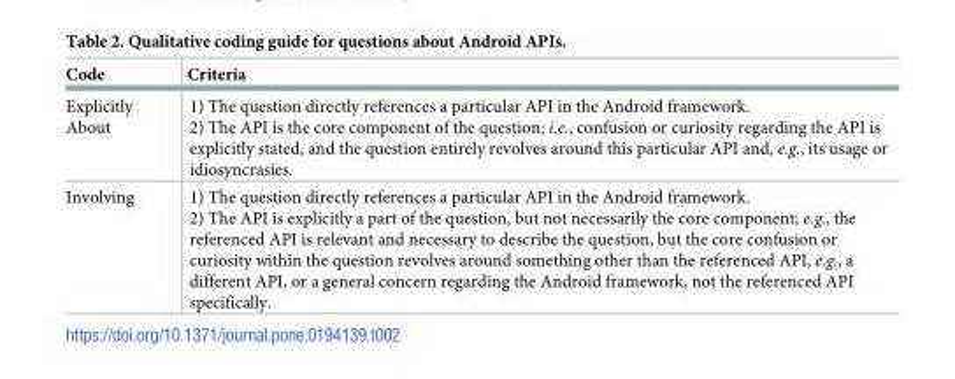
<table><thead><tr><td>Code</td><td>Criteria</td></tr></thead><tbody><tr><td>Explicitly About</td><td>1) The question directly references a particular API in the Android framework. 2) The API is the core component of the question; i.e., confusion or curiosity regarding the API is explicitly stated, and the question entirely revolves around this particular API and, e.g., its usage or idiosyncrasies.</td></tr><tr><td>Involving</td><td>1) The question directly references a particular API in the Android framework. 2) The API is explicitly a part of the question, but not necessarily the core component; e.g., the referenced API is relevant and necessary to describe the question, but the core confusion or curiosity within the question revolves around something other than the referenced API, e.g., a different API, or a general concern regarding the Android framework, not the referenced API specifically.</td></tr></tbody></table>